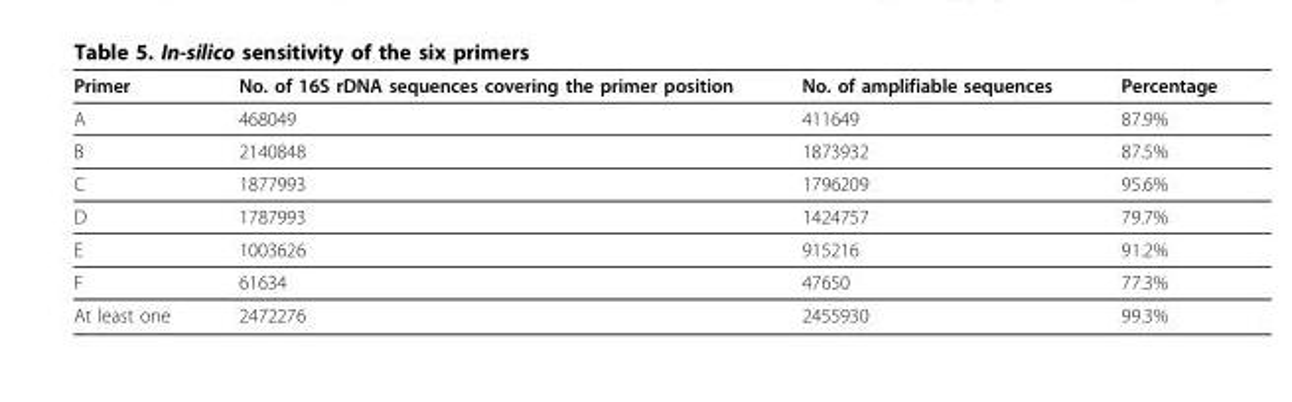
<table><thead><tr><td>Primer</td><td>No. of 16S rDNA sequences covering the primer position</td><td>No. of amplifiable sequences</td><td>Percentage</td></tr></thead><tbody><tr><td>A</td><td>468049</td><td>411649</td><td>87.9%</td></tr><tr><td>B</td><td>2140848</td><td>1873932</td><td>87.5%</td></tr><tr><td>C</td><td>1877993</td><td>1796209</td><td>95.6%</td></tr><tr><td>D</td><td>1787993</td><td>1424757</td><td>79.7%</td></tr><tr><td>E</td><td>1003626</td><td>915216</td><td>91.2%</td></tr><tr><td>F</td><td>61634</td><td>47650</td><td>77.3%</td></tr><tr><td>At least one</td><td>2472276</td><td>2455930</td><td>99.3%</td></tr></tbody></table>